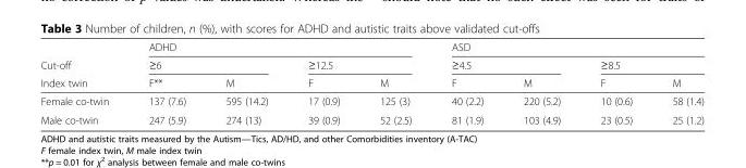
<table><thead><tr><td rowspan="3">Cut-off Index twin</td><td colspan="4">ADHD</td><td colspan="4">ASD</td></tr><tr><td colspan="2">≥6</td><td colspan="2">≥12.5</td><td colspan="2">≥4.5</td><td colspan="2">≥8.5</td></tr><tr><td>F**</td><td>M</td><td>F</td><td>M</td><td>F</td><td>M</td><td>F</td><td>M</td></tr></thead><tbody><tr><td>Female co-twin</td><td>137 (7.6)</td><td>595 (14.2)</td><td>17 (0.9)</td><td>125 (3)</td><td>40 (2.2)</td><td>220 (5.2)</td><td>10 (0.6)</td><td>58 (1.4)</td></tr><tr><td>Male co-twin</td><td>247 (5.9)</td><td>274 (13)</td><td>39 (0.9)</td><td>52 (2.5)</td><td>81 (1.9)</td><td>103 (4.9)</td><td>23 (0.5)</td><td>25 (1.2)</td></tr></tbody></table>